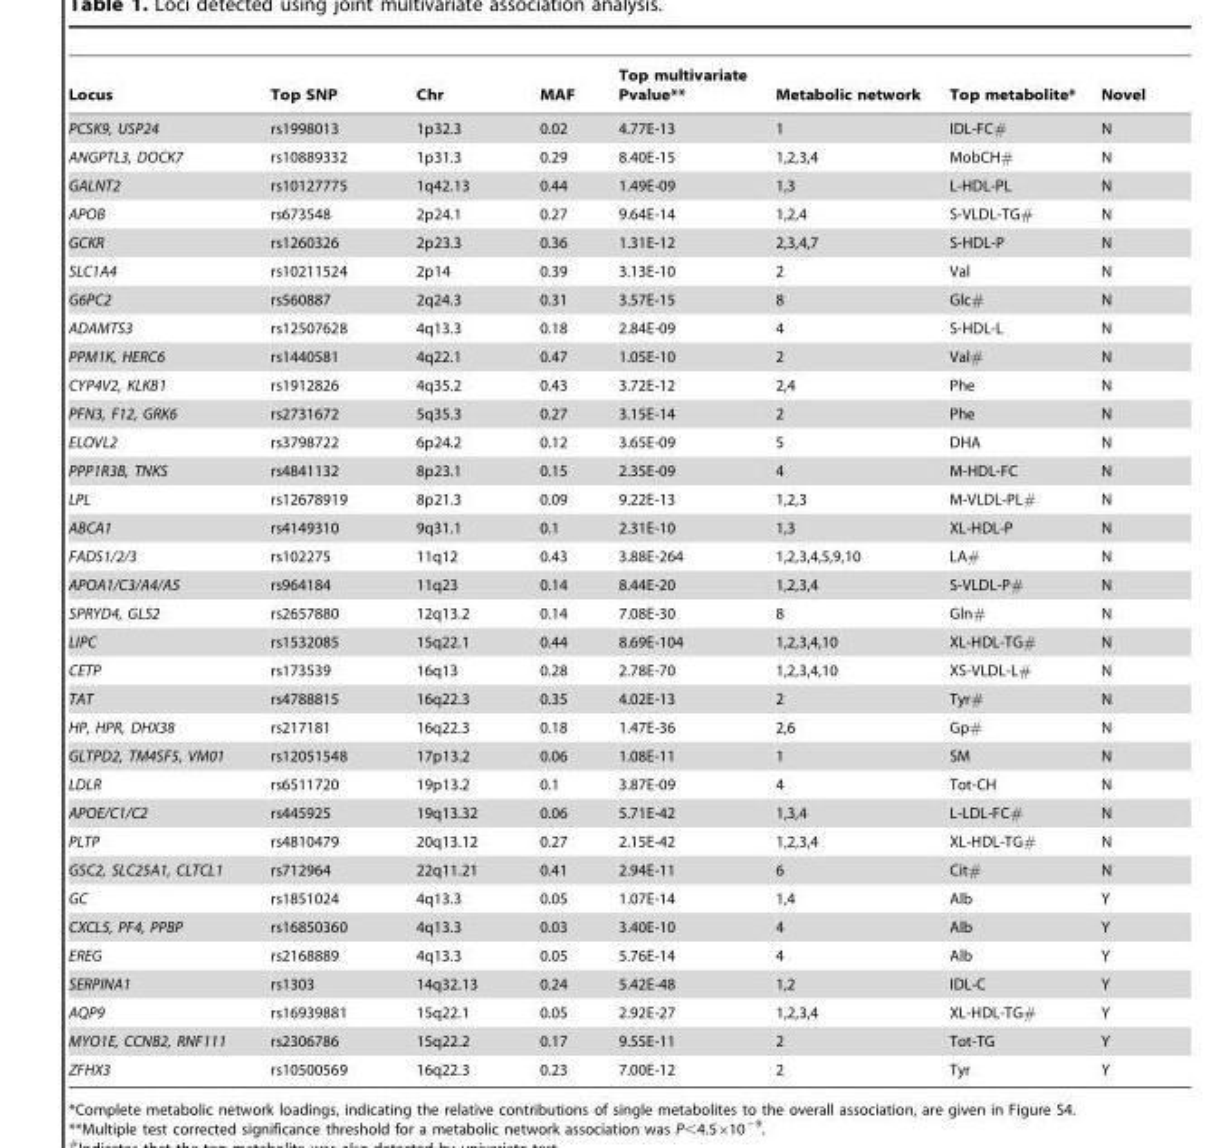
<table><thead><tr><td>Locus</td><td>Top SNP</td><td>Chr</td><td>MAF</td><td>Top multivariate Pvalue**</td><td>Metabolic network</td><td>Top metabolite*</td><td>Novel</td></tr></thead><tbody><tr><td>PCSK9, USP24</td><td>rs1998013</td><td>1p32.3</td><td>0.02</td><td>4.77E-13</td><td>1</td><td>IDL-FC#</td><td>N</td></tr><tr><td>ANGPTL3, DOCK7</td><td>rs10889332</td><td>1p31.3</td><td>0.29</td><td>8.40E-15</td><td>1,2,3,4</td><td>MobCH#</td><td>N</td></tr><tr><td>GALNT2</td><td>rs10127775</td><td>1q42.13</td><td>0.44</td><td>1.49E-09</td><td>1,3</td><td>L-HDL-PL</td><td>N</td></tr><tr><td>APOB</td><td>rs673548</td><td>2p24.1</td><td>0.27</td><td>9.64E-14</td><td>1,2,4</td><td>S-VLDL-TG#</td><td>N</td></tr><tr><td>GCKR</td><td>rs1260326</td><td>2p23.3</td><td>0.36</td><td>1.31E-12</td><td>2,3,4,7</td><td>S-HDL-P</td><td>N</td></tr><tr><td>SLC1A4</td><td>rs10211524</td><td>2p14</td><td>0.39</td><td>3.13E-10</td><td>2</td><td>Val</td><td>N</td></tr><tr><td>G6PC2</td><td>rs560887</td><td>2q24.3</td><td>0.31</td><td>3.57E-15</td><td>8</td><td>Glc#</td><td>N</td></tr><tr><td>ADAMTS3</td><td>rs12507628</td><td>4q13.3</td><td>0.18</td><td>2.84E-09</td><td>4</td><td>S-HDL-L</td><td>N</td></tr><tr><td>PPM1K, HERC6</td><td>rs1440581</td><td>4q22.1</td><td>0.47</td><td>1.05E-10</td><td>2</td><td>Val#</td><td>N</td></tr><tr><td>CYP4V2, KLKB1</td><td>rs1912826</td><td>4q35.2</td><td>0.43</td><td>3.72E-12</td><td>2,4</td><td>Phe</td><td>N</td></tr><tr><td>PFN3, F12, GRK6</td><td>rs2731672</td><td>5q35.3</td><td>0.27</td><td>3.15E-14</td><td>2</td><td>Phe</td><td>N</td></tr><tr><td>ELOVL2</td><td>rs3798722</td><td>6p24.2</td><td>0.12</td><td>3.65E-09</td><td>5</td><td>DHA</td><td>N</td></tr><tr><td>PPP1R3B, TNKS</td><td>rs4841132</td><td>8p23.1</td><td>0.15</td><td>2.35E-09</td><td>4</td><td>M-HDL-FC</td><td>N</td></tr><tr><td>LPL</td><td>rs12678919</td><td>8p21.3</td><td>0.09</td><td>9.22E-13</td><td>1,2,3</td><td>M-VLDL-PL#</td><td>N</td></tr><tr><td>ABCA1</td><td>rs4149310</td><td>9q31.1</td><td>0.1</td><td>2.31E-10</td><td>1,3</td><td>XL-HDL-P</td><td>N</td></tr><tr><td>FADS1/2/3</td><td>rs102275</td><td>11q12</td><td>0.43</td><td>3.88E-264</td><td>1,2,3,4,5,9,10</td><td>LA#</td><td>N</td></tr><tr><td>APOA1/C3/A4/A5</td><td>rs964184</td><td>11q23</td><td>0.14</td><td>8.44E-20</td><td>1,2,3,4</td><td>S-VLDL-P#</td><td>N</td></tr><tr><td>SPRYD4, GLS2</td><td>rs2657880</td><td>12q13.2</td><td>0.14</td><td>7.08E-30</td><td>8</td><td>Gln#</td><td>N</td></tr><tr><td>LIPC</td><td>rs1532085</td><td>15q22.1</td><td>0.44</td><td>8.69E-104</td><td>1,2,3,4,10</td><td>XL-HDL-TG#</td><td>N</td></tr><tr><td>CETP</td><td>rs173539</td><td>16q13</td><td>0.28</td><td>2.78E-70</td><td>1,2,3,4,10</td><td>XS-VLDL-L#</td><td>N</td></tr><tr><td>TAT</td><td>rs4788815</td><td>16q22.3</td><td>0.35</td><td>4.02E-13</td><td>2</td><td>Tyr#</td><td>N</td></tr><tr><td>HP, HPR, DHX38</td><td>rs217181</td><td>16q22.3</td><td>0.18</td><td>1.47E-36</td><td>2,6</td><td>Gp#</td><td>N</td></tr><tr><td>GLTPD2, TM4SF5, VM01</td><td>rs12051548</td><td>17p13.2</td><td>0.06</td><td>1.08E-11</td><td>1</td><td>SM</td><td>N</td></tr><tr><td>LDLR</td><td>rs6511720</td><td>19p13.2</td><td>0.1</td><td>3.87E-09</td><td>4</td><td>Tot-CH</td><td>N</td></tr><tr><td>APOE/C1/C2</td><td>rs445925</td><td>19q13.32</td><td>0.06</td><td>5.71E-42</td><td>1,3,4</td><td>L-LDL-FC#</td><td>N</td></tr><tr><td>PLTP</td><td>rs4810479</td><td>20q13.12</td><td>0.27</td><td>2.15E-42</td><td>1,2,3,4</td><td>XL-HDL-TG#</td><td>N</td></tr><tr><td>GSC2, SLC25A1, CLTCL1</td><td>rs712964</td><td>22q11.21</td><td>0.41</td><td>2.94E-11</td><td>6</td><td>Cit#</td><td>N</td></tr><tr><td>GC</td><td>rs1851024</td><td>4q13.3</td><td>0.05</td><td>1.07E-14</td><td>1,4</td><td>Alb</td><td>Y</td></tr><tr><td>CXCL5, PF4, PPBP</td><td>rs16850360</td><td>4q13.3</td><td>0.03</td><td>3.40E-10</td><td>4</td><td>Alb</td><td>Y</td></tr><tr><td>EREG</td><td>rs2168889</td><td>4q13.3</td><td>0.05</td><td>5.76E-14</td><td>4</td><td>Alb</td><td>Y</td></tr><tr><td>SERPINA1</td><td>rs1303</td><td>14q32.13</td><td>0.24</td><td>5.42E-48</td><td>1,2</td><td>IDL-C</td><td>Y</td></tr><tr><td>AQP9</td><td>rs16939881</td><td>15q22.1</td><td>0.05</td><td>2.92E-27</td><td>1,2,3,4</td><td>XL-HDL-TG#</td><td>Y</td></tr><tr><td>MYO1E, CCNB2, RNF111</td><td>rs2306786</td><td>15q22.2</td><td>0.17</td><td>9.55E-11</td><td>2</td><td>Tot-TG</td><td>Y</td></tr><tr><td>ZFHX3</td><td>rs10500569</td><td>16q22.3</td><td>0.23</td><td>7.00E-12</td><td>2</td><td>Tyr</td><td>Y</td></tr></tbody></table>